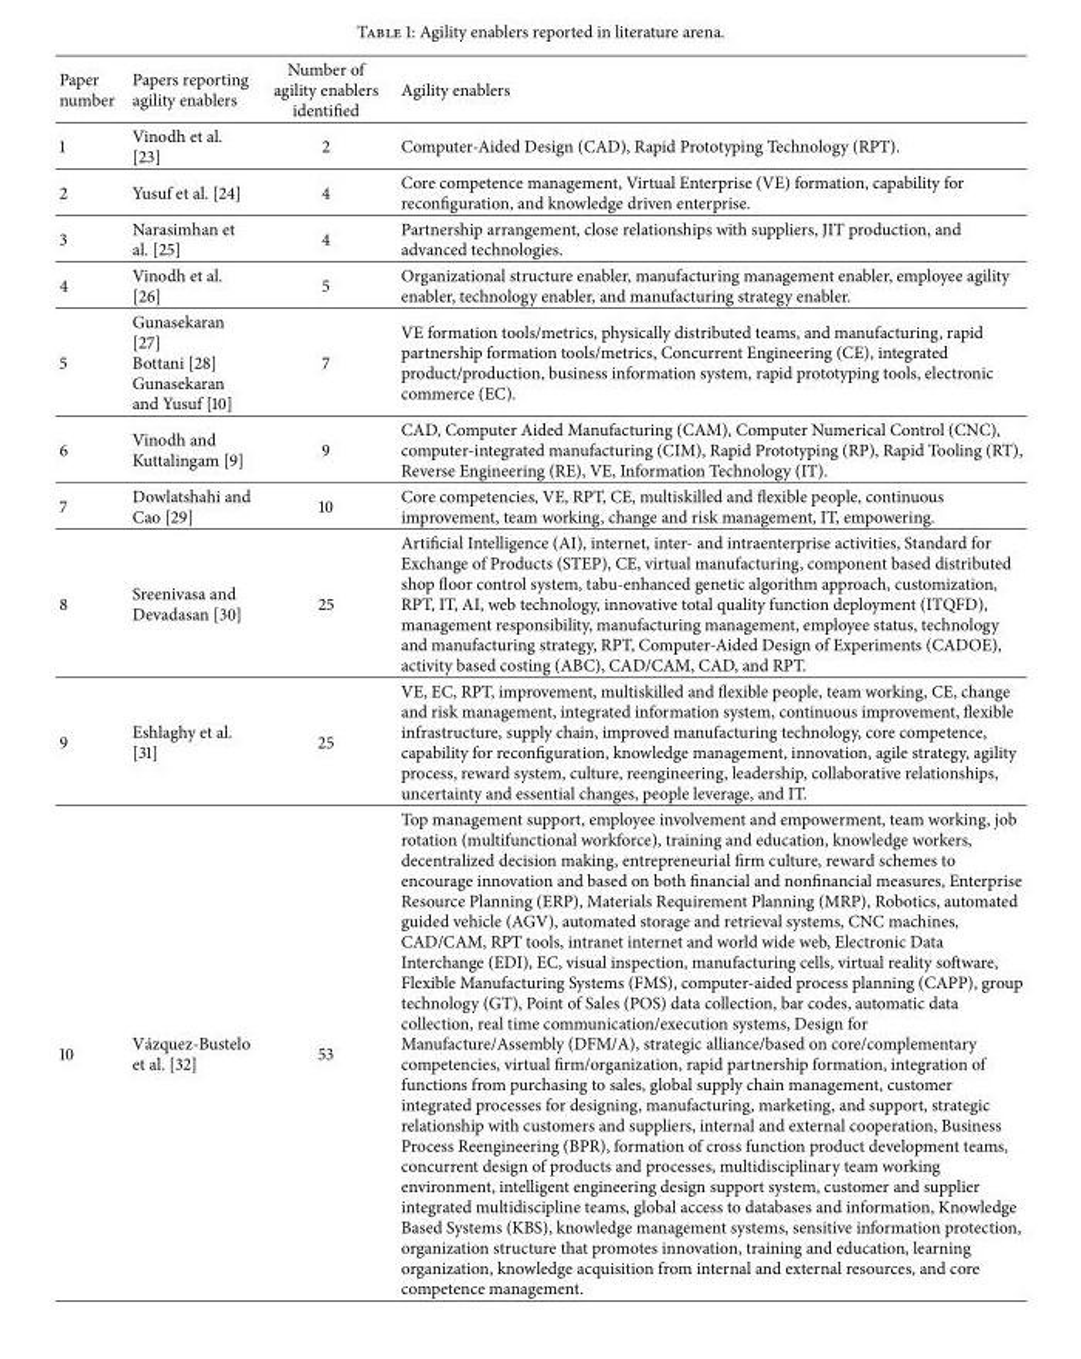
<table><thead><tr><td>Paper number</td><td>Papers reporting agility enablers</td><td>Number of agility enablers identified</td><td>Agility enablers</td></tr></thead><tbody><tr><td>1</td><td>Vinodh et al. [23]</td><td>2</td><td>Computer-Aided Design (CAD), Rapid Prototyping Technology (RPT).</td></tr><tr><td>2</td><td>Yusuf et al. [24]</td><td>4</td><td>Core competence management, Virtual Enterprise (VE) formation, capability for reconfiguration, and knowledge driven enterprise.</td></tr><tr><td>3</td><td>Narasimhan et al. [25]</td><td>4</td><td>Partnership arrangement, close relationships with suppliers, JIT production, and advanced technologies.</td></tr><tr><td>4</td><td>Vinodh et al. [26]</td><td>5</td><td>Organizational structure enabler, manufacturing management enabler, employee agility enabler, technology enabler, and manufacturing strategy enabler.</td></tr><tr><td>5</td><td>Gunasekaran [27] Bottani [28] Gunasekaran and Yusuf [10]</td><td>7</td><td>VE formation tools/metrics, physically distributed teams, and manufacturing, rapid partnership formation tools/metrics, Concurrent Engineering (CE), integrated product/production, business information system, rapid prototyping tools, electronic commerce (EC).</td></tr><tr><td>6</td><td>Vinodh and Kuttalingam [9]</td><td>9</td><td>CAD, Computer Aided Manufacturing (CAM), Computer Numerical Control (CNC), computer-integrated manufacturing (CIM), Rapid Prototyping (RP), Rapid Tooling (RT), Reverse Engineering (RE), VE, Information Technology (IT).</td></tr><tr><td>7</td><td>Dowlatshahi and Cao [29]</td><td>10</td><td>Core competencies, VE, RPT, CE, multiskilled and flexible people, continuous improvement, team working, change and risk management, IT, empowering.</td></tr><tr><td>8</td><td>Sreenivasa and Devadasan [30]</td><td>25</td><td>Artificial Intelligence (AI), internet, inter- and intraenterprise activities, Standard for Exchange of Products (STEP), CE, virtual manufacturing, component based distributed shop floor control system, tabu-enhanced genetic algorithm approach, customization, RPT, IT, AI, web technology, innovative total quality function deployment (ITQFD), management responsibility, manufacturing management, employee status, technology and manufacturing strategy, RPT, Computer-Aided Design of Experiments (CADOE), activity based costing (ABC), CAD/CAM, CAD, and RPT.</td></tr><tr><td>9</td><td>Eshlaghy et al. [31]</td><td>25</td><td>VE, EC, RPT, improvement, multiskilled and flexible people, team working, CE, change and risk management, integrated information system, continuous improvement, flexible infrastructure, supply chain, improved manufacturing technology, core competence, capability for reconfiguration, knowledge management, innovation, agile strategy, agility process, reward system, culture, reengineering, leadership, collaborative relationships, uncertainty and essential changes, people leverage, and IT.</td></tr><tr><td>10</td><td>V´azquez-Bustelo et al. [32]</td><td>53</td><td>Top management support, employee involvement and empowerment, team working, job rotation (multifunctional workforce), training and education, knowledge workers, decentralized decision making, entrepreneurial firm culture, reward schemes to encourage innovation and based on both financial and nonfinancial measures, Enterprise Resource Planning (ERP), Materials Requirement Planning (MRP), Robotics, automated guided vehicle (AGV), automated storage and retrieval systems, CNC machines, CAD/CAM, RPT tools, intranet internet and world wide web, Electronic Data Interchange (EDI), EC, visual inspection, manufacturing cells, virtual reality software, Flexible Manufacturing Systems (FMS), computer-aided process planning (CAPP), group technology (GT), Point of Sales (POS) data collection, bar codes, automatic data collection, real time communication/execution systems, Design for Manufacture/Assembly (DFM/A), strategic alliance/based on core/complementary competencies, virtual firm/organization, rapid partnership formation, integration of functions from purchasing to sales, global supply chain management, customer integrated processes for designing, manufacturing, marketing, and support, strategic relationship with customers and suppliers, internal and external cooperation, Business Process Reengineering (BPR), formation of cross function product development teams, concurrent design of products and processes, multidisciplinary team working environment, intelligent engineering design support system, customer and supplier integrated multidiscipline teams, global access to databases and information, Knowledge Based Systems (KBS), knowledge management systems, sensitive information protection, organization structure that promotes innovation, training and education, learning organization, knowledge acquisition from internal and external resources, and core competence management.</td></tr></tbody></table>